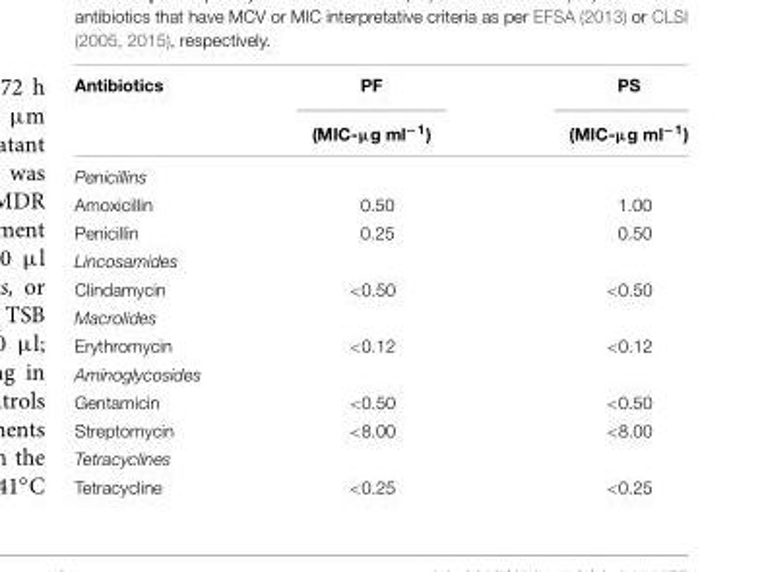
<table><thead><tr><td rowspan="2">Antibiotics</td><td rowspan="2">PF (MIC-µg ml<sup>−1</sup>)</td><td rowspan="2">PS (MIC-µg ml<sup>−1</sup>)</td></tr><tr></tr></thead><tbody><tr><td colspan="3">Penicillins</td></tr><tr><td>Amoxicillin</td><td>0.50</td><td>1.00</td></tr><tr><td>Penicillin</td><td>0.25</td><td>0.50</td></tr><tr><td colspan="3">Lincosamides</td></tr><tr><td>Clindamycin</td><td>&lt;0.50</td><td>&lt;0.50</td></tr><tr><td colspan="3">Macrolides</td></tr><tr><td>Erythromycin</td><td>&lt;0.12</td><td>&lt;0.12</td></tr><tr><td colspan="3">Aminoglycosides</td></tr><tr><td>Gentamicin</td><td>&lt;0.50</td><td>&lt;0.50</td></tr><tr><td>Streptomycin</td><td>&lt;8.00</td><td>&lt;8.00</td></tr><tr><td colspan="3">Tetracyclines</td></tr><tr><td>Tetracycline</td><td>&lt;0.25</td><td>&lt;0.25</td></tr></tbody></table>